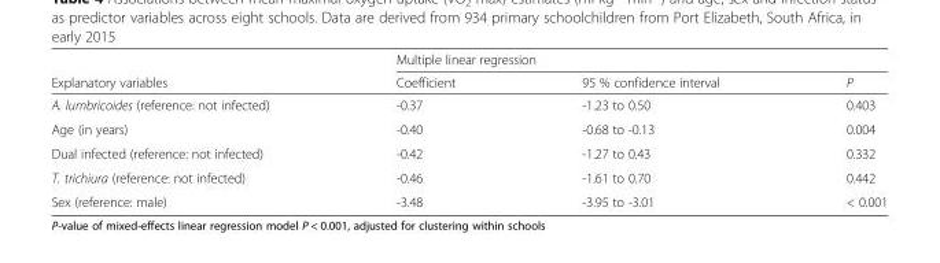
<table><thead><tr><td rowspan="2">Explanatory variables</td><td colspan="3">Multiple linear regression</td></tr><tr><td>Coefficient</td><td>95 % confidence interval</td><td>P</td></tr></thead><tbody><tr><td>A. lumbricoides (reference: not infected)</td><td>-0.37</td><td>-1.23 to 0.50</td><td>0.403</td></tr><tr><td>Age (in years)</td><td>-0.40</td><td>-0.68 to -0.13</td><td>0.004</td></tr><tr><td>Dual infected (reference: not infected)</td><td>-0.42</td><td>-1.27 to 0.43</td><td>0.332</td></tr><tr><td>T. trichiura (reference: not infected)</td><td>-0.46</td><td>-1.61 to 0.70</td><td>0.442</td></tr><tr><td>Sex (reference: male)</td><td>-3.48</td><td>-3.95 to -3.01</td><td>&lt; 0.001</td></tr></tbody></table>